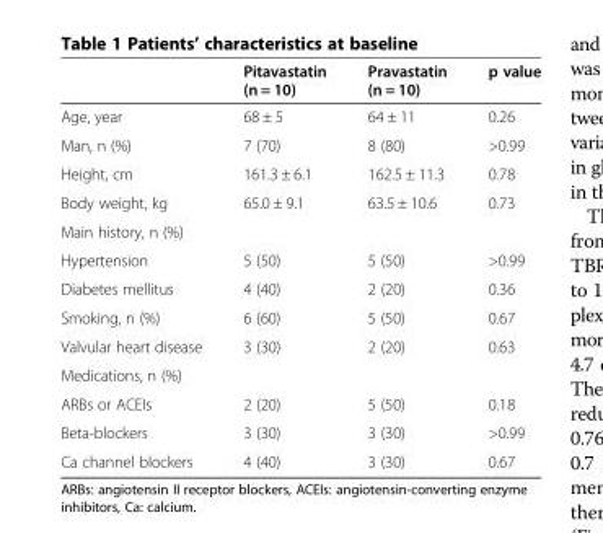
<table><thead><tr><td></td><td>Pitavastatin (n = 10)</td><td>Pravastatin (n = 10)</td><td>p value</td></tr></thead><tbody><tr><td>Age, year</td><td>68 ± 5</td><td>64 ± 11</td><td>0.26</td></tr><tr><td>Man, n (%)</td><td>7 (70)</td><td>8 (80)</td><td>&gt;0.99</td></tr><tr><td>Height, cm</td><td>161.3 ± 6.1</td><td>162.5 ± 11.3</td><td>0.78</td></tr><tr><td>Body weight, kg</td><td>65.0 ± 9.1</td><td>63.5 ± 10.6</td><td>0.73</td></tr><tr><td colspan="4">Main history, n (%)</td></tr><tr><td>Hypertension</td><td>5 (50)</td><td>5 (50)</td><td>&gt;0.99</td></tr><tr><td>Diabetes mellitus</td><td>4 (40)</td><td>2 (20)</td><td>0.36</td></tr><tr><td>Smoking, n (%)</td><td>6 (60)</td><td>5 (50)</td><td>0.67</td></tr><tr><td>Valvular heart disease</td><td>3 (30)</td><td>2 (20)</td><td>0.63</td></tr><tr><td colspan="4">Medications, n (%)</td></tr><tr><td>ARBs or ACEIs</td><td>2 (20)</td><td>5 (50)</td><td>0.18</td></tr><tr><td>Beta-blockers</td><td>3 (30)</td><td>3 (30)</td><td>&gt;0.99</td></tr><tr><td>Ca channel blockers</td><td>4 (40)</td><td>3 (30)</td><td>0.67</td></tr></tbody></table>